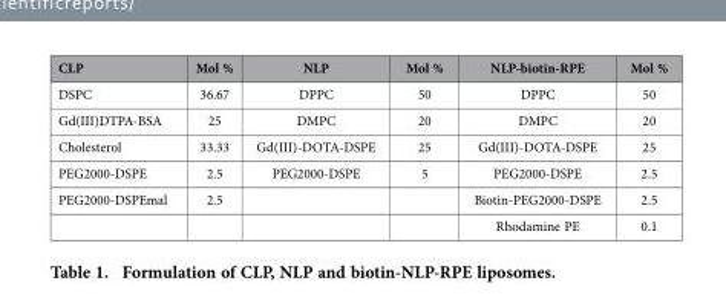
<table><thead><tr><td>CLP</td><td>Mol %</td><td>NLP</td><td>Mol %</td><td>NLP-biotin-RPE</td><td>Mol %</td></tr></thead><tbody><tr><td>DSPC</td><td>36.67</td><td>DPPC</td><td>50</td><td>DPPC</td><td>50</td></tr><tr><td>Gd(III)DTPA-BSA</td><td>25</td><td>DMPC</td><td>20</td><td>DMPC</td><td>20</td></tr><tr><td>Cholesterol</td><td>33.33</td><td>Gd(III)-DOTA-DSPE</td><td>25</td><td>Gd(III)-DOTA-DSPE</td><td>25</td></tr><tr><td>PEG2000-DSPE</td><td>2.5</td><td>PEG2000-DSPE</td><td>5</td><td>PEG2000-DSPE</td><td>2.5</td></tr><tr><td rowspan="2">PEG2000-DSPEmal</td><td>2.5</td><td></td><td></td><td>Biotin-PEG2000-DSPE</td><td>2.5</td></tr><tr><td></td><td></td><td></td><td>Rhodamine PE</td><td>0.1</td></tr></tbody></table>